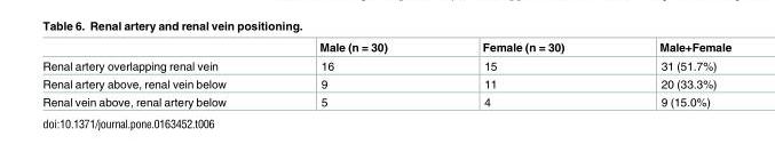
<table><thead><tr><td></td><td>Male (n = 30)</td><td>Female (n = 30)</td><td>Male+Female</td></tr></thead><tbody><tr><td>Renal artery overlapping renal vein</td><td>16</td><td>15</td><td>31 (51.7%)</td></tr><tr><td>Renal artery above, renal vein below</td><td>9</td><td>11</td><td>20 (33.3%)</td></tr><tr><td>Renal vein above, renal artery below</td><td>5</td><td>4</td><td>9 (15.0%)</td></tr></tbody></table>